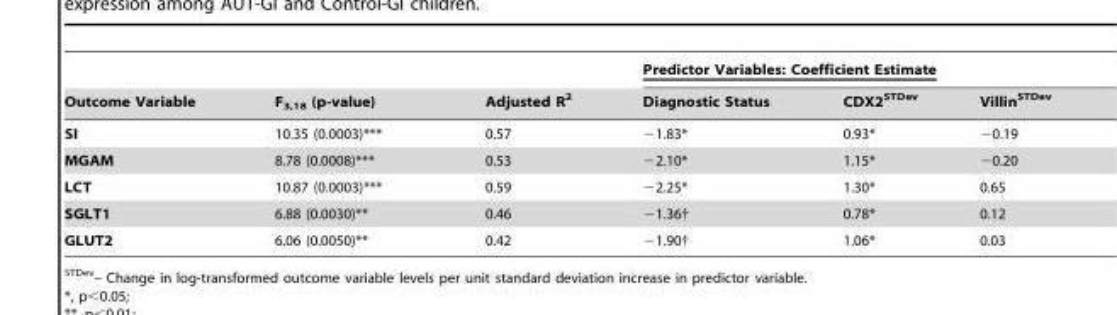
<table><thead><tr><td rowspan="2">Outcome Variable</td><td rowspan="2">F<sub>3,18</sub> (p-value)</td><td rowspan="2">Adjusted R<sup>2</sup></td><td colspan="3">Predictor Variables: Coefficient Estimate</td></tr><tr><td>Diagnostic Status</td><td>CDX2STDev</td><td>VillinSTDev</td></tr></thead><tbody><tr><td>SI</td><td>10.35 (0.0003)***</td><td>0.57</td><td>−1.83*</td><td>0.93*</td><td>−0.19</td></tr><tr><td>MGAM</td><td>8.78 (0.0008)***</td><td>0.53</td><td>−2.10*</td><td>1.15*</td><td>−0.20</td></tr><tr><td>LCT</td><td>10.87 (0.0003)***</td><td>0.59</td><td>−2.25*</td><td>1.30*</td><td>0.65</td></tr><tr><td>SGLT1</td><td>6.88 (0.0030)**</td><td>0.46</td><td>−1.36†</td><td>0.78*</td><td>0.12</td></tr><tr><td>GLUT2</td><td>6.06 (0.0050)**</td><td>0.42</td><td>−1.90†</td><td>1.06*</td><td>0.03</td></tr></tbody></table>